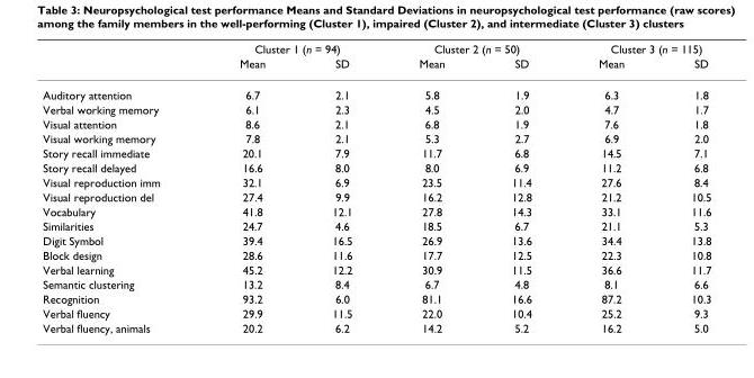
<table><thead><tr><td rowspan="2"></td><td colspan="2">Cluster 1 (n = 94)</td><td colspan="2">Cluster 2 (n = 50)</td><td colspan="2">Cluster 3 (n = 115)</td></tr><tr><td>Mean</td><td>SD</td><td>Mean</td><td>SD</td><td>Mean</td><td>SD</td></tr></thead><tbody><tr><td>Auditory attention</td><td>6.7</td><td>2.1</td><td>5.8</td><td>1.9</td><td>6.3</td><td>1.8</td></tr><tr><td>Verbal working memory</td><td>6.1</td><td>2.3</td><td>4.5</td><td>2.0</td><td>4.7</td><td>1.7</td></tr><tr><td>Visual attention</td><td>8.6</td><td>2.1</td><td>6.8</td><td>1.9</td><td>7.6</td><td>1.8</td></tr><tr><td>Visual working memory</td><td>7.8</td><td>2.1</td><td>5.3</td><td>2.7</td><td>6.9</td><td>2.0</td></tr><tr><td>Story recall immediate</td><td>20.1</td><td>7.9</td><td>11.7</td><td>6.8</td><td>14.5</td><td>7.1</td></tr><tr><td>Story recall delayed</td><td>16.6</td><td>8.0</td><td>8.0</td><td>6.9</td><td>11.2</td><td>6.8</td></tr><tr><td>Visual reproduction imm</td><td>32.1</td><td>6.9</td><td>23.5</td><td>11.4</td><td>27.6</td><td>8.4</td></tr><tr><td>Visual reproduction del</td><td>27.4</td><td>9.9</td><td>16.2</td><td>12.8</td><td>21.2</td><td>10.5</td></tr><tr><td>Vocabulary</td><td>41.8</td><td>12.1</td><td>27.8</td><td>14.3</td><td>33.1</td><td>11.6</td></tr><tr><td>Similarities</td><td>24.7</td><td>4.6</td><td>18.5</td><td>6.7</td><td>21.1</td><td>5.3</td></tr><tr><td>Digit Symbol</td><td>39.4</td><td>16.5</td><td>26.9</td><td>13.6</td><td>34.4</td><td>13.8</td></tr><tr><td>Block design</td><td>28.6</td><td>11.6</td><td>17.7</td><td>12.5</td><td>22.3</td><td>10.8</td></tr><tr><td>Verbal learning</td><td>45.2</td><td>12.2</td><td>30.9</td><td>11.5</td><td>36.6</td><td>11.7</td></tr><tr><td>Semantic clustering</td><td>13.2</td><td>8.4</td><td>6.7</td><td>4.8</td><td>8.1</td><td>6.6</td></tr><tr><td>Recognition</td><td>93.2</td><td>6.0</td><td>81.1</td><td>16.6</td><td>87.2</td><td>10.3</td></tr><tr><td>Verbal fluency</td><td>29.9</td><td>11.5</td><td>22.0</td><td>10.4</td><td>25.2</td><td>9.3</td></tr><tr><td>Verbal fluency, animals</td><td>20.2</td><td>6.2</td><td>14.2</td><td>5.2</td><td>16.2</td><td>5.0</td></tr></tbody></table>